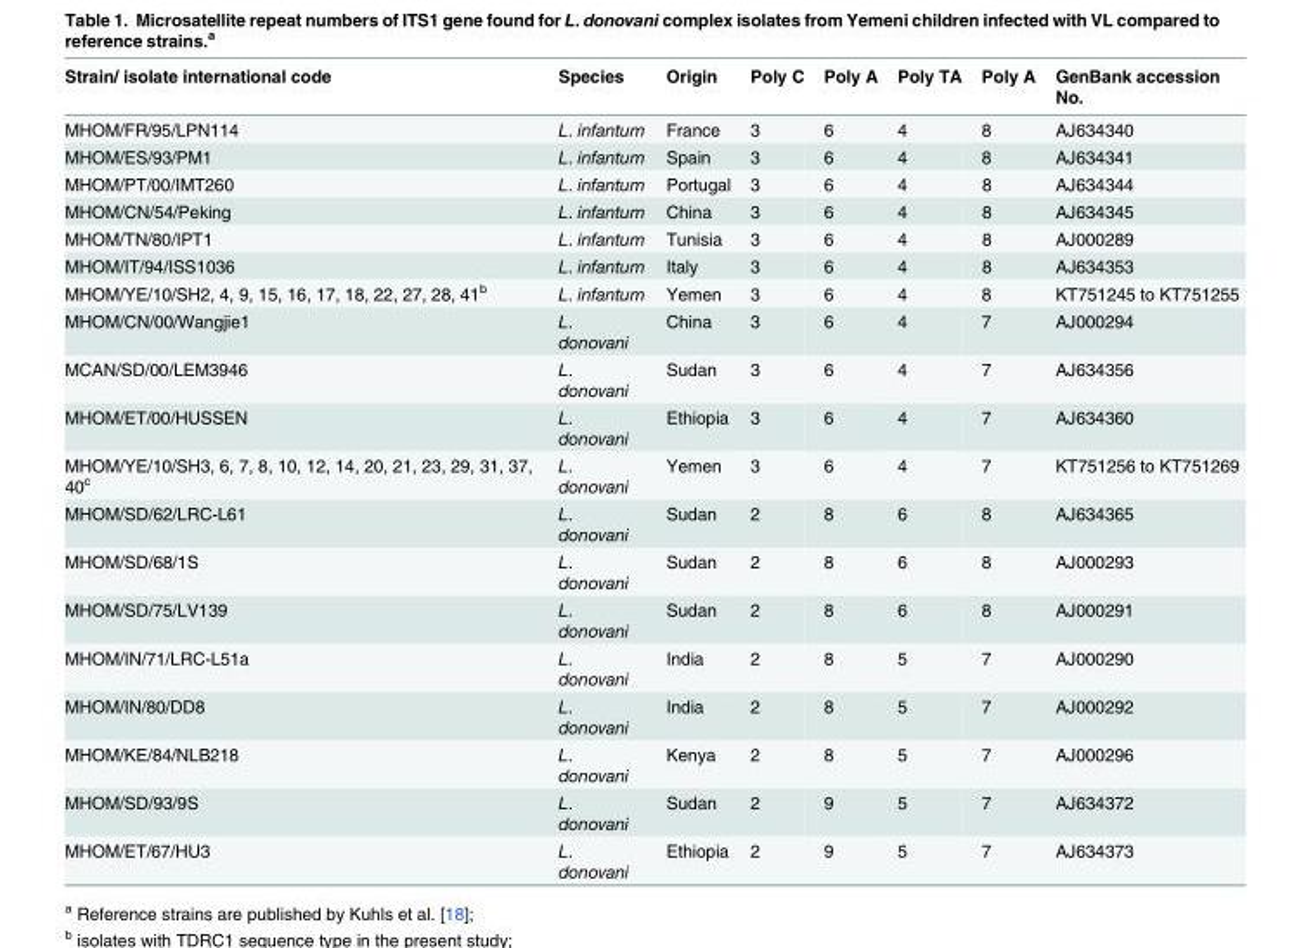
<table><thead><tr><td>Strain/ isolate international code</td><td>Species</td><td>Origin</td><td>Poly C</td><td>Poly A</td><td>Poly TA</td><td>Poly A</td><td>GenBank accession No.</td></tr></thead><tbody><tr><td>MHOM/FR/95/LPN114</td><td>L. infantum</td><td>France</td><td>3</td><td>6</td><td>4</td><td>8</td><td>AJ634340</td></tr><tr><td>MHOM/ES/93/PM1</td><td>L. infantum</td><td>Spain</td><td>3</td><td>6</td><td>4</td><td>8</td><td>AJ634341</td></tr><tr><td>MHOM/PT/00/IMT260</td><td>L. infantum</td><td>Portugal</td><td>3</td><td>6</td><td>4</td><td>8</td><td>AJ634344</td></tr><tr><td>MHOM/CN/54/Peking</td><td>L. infantum</td><td>China</td><td>3</td><td>6</td><td>4</td><td>8</td><td>AJ634345</td></tr><tr><td>MHOM/TN/80/IPT1</td><td>L. infantum</td><td>Tunisia</td><td>3</td><td>6</td><td>4</td><td>8</td><td>AJ000289</td></tr><tr><td>MHOM/IT/94/ISS1036</td><td>L. infantum</td><td>Italy</td><td>3</td><td>6</td><td>4</td><td>8</td><td>AJ634353</td></tr><tr><td>MHOM/YE/10/SH2, 4, 9, 15, 16, 17, 18, 22, 27, 28, 41<sup>b</sup></td><td>L. infantum</td><td>Yemen</td><td>3</td><td>6</td><td>4</td><td>8</td><td>KT751245 to KT751255</td></tr><tr><td>MHOM/CN/00/Wangjie1</td><td>L. donovani</td><td>China</td><td>3</td><td>6</td><td>4</td><td>7</td><td>AJ000294</td></tr><tr><td>MCAN/SD/00/LEM3946</td><td>L. donovani</td><td>Sudan</td><td>3</td><td>6</td><td>4</td><td>7</td><td>AJ634356</td></tr><tr><td>MHOM/ET/00/HUSSEN</td><td>L. donovani</td><td>Ethiopia</td><td>3</td><td>6</td><td>4</td><td>7</td><td>AJ634360</td></tr><tr><td>MHOM/YE/10/SH3, 6, 7, 8, 10, 12, 14, 20, 21, 23, 29, 31, 37, 40<sup>c</sup></td><td>L. donovani</td><td>Yemen</td><td>3</td><td>6</td><td>4</td><td>7</td><td>KT751256 to KT751269</td></tr><tr><td>MHOM/SD/62/LRC-L61</td><td>L. donovani</td><td>Sudan</td><td>2</td><td>8</td><td>6</td><td>8</td><td>AJ634365</td></tr><tr><td>MHOM/SD/68/1S</td><td>L. donovani</td><td>Sudan</td><td>2</td><td>8</td><td>6</td><td>8</td><td>AJ000293</td></tr><tr><td>MHOM/SD/75/LV139</td><td>L. donovani</td><td>Sudan</td><td>2</td><td>8</td><td>6</td><td>8</td><td>AJ000291</td></tr><tr><td>MHOM/IN/71/LRC-L51a</td><td>L. donovani</td><td>India</td><td>2</td><td>8</td><td>5</td><td>7</td><td>AJ000290</td></tr><tr><td>MHOM/IN/80/DD8</td><td>L. donovani</td><td>India</td><td>2</td><td>8</td><td>5</td><td>7</td><td>AJ000292</td></tr><tr><td>MHOM/KE/84/NLB218</td><td>L. donovani</td><td>Kenya</td><td>2</td><td>8</td><td>5</td><td>7</td><td>AJ000296</td></tr><tr><td>MHOM/SD/93/9S</td><td>L. donovani</td><td>Sudan</td><td>2</td><td>9</td><td>5</td><td>7</td><td>AJ634372</td></tr><tr><td>MHOM/ET/67/HU3</td><td>L. donovani</td><td>Ethiopia</td><td>2</td><td>9</td><td>5</td><td>7</td><td>AJ634373</td></tr></tbody></table>